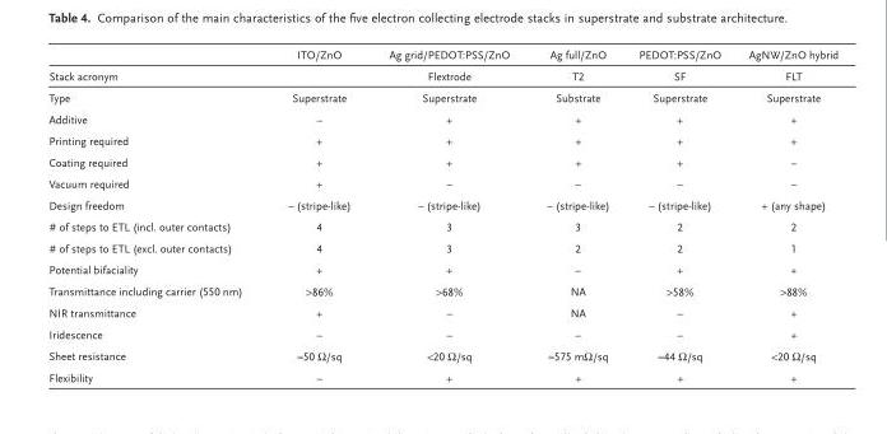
<table><thead><tr><td rowspan="2">Stack acronym</td><td rowspan="2">ITO/ZnO</td><td rowspan="2">Ag grid/PEDOT:PSS/ZnO Flextrode</td><td rowspan="2">Ag full/ZnO T2</td><td rowspan="2">PEDOT:PSS/ZnO SF</td><td rowspan="2">AgNW/ZnO hybrid FLT</td></tr><tr></tr></thead><tbody><tr><td>Type</td><td>Superstrate</td><td>Superstrate</td><td>Substrate</td><td>Superstrate</td><td>Superstrate</td></tr><tr><td>Additive</td><td>–</td><td>+</td><td>+</td><td>+</td><td>+</td></tr><tr><td>Printing required</td><td>+</td><td>+</td><td>+</td><td>+</td><td>+</td></tr><tr><td>Coating required</td><td>+</td><td>+</td><td>+</td><td>+</td><td>–</td></tr><tr><td>Vacuum required</td><td>+</td><td>–</td><td>–</td><td>–</td><td>–</td></tr><tr><td>Design freedom</td><td>– (stripe-like)</td><td>– (stripe-like)</td><td>– (stripe-like)</td><td>– (stripe-like)</td><td>+ (any shape)</td></tr><tr><td># of steps to ETL (incl. outer contacts)</td><td>4</td><td>3</td><td>3</td><td>2</td><td>2</td></tr><tr><td># of steps to ETL (excl. outer contacts)</td><td>4</td><td>3</td><td>2</td><td>2</td><td>1</td></tr><tr><td>Potential bifaciality</td><td>+</td><td>+</td><td>–</td><td>+</td><td>+</td></tr><tr><td>Transmittance including carrier (550 nm)</td><td>&gt;86%</td><td>&gt;68%</td><td>NA</td><td>&gt;58%</td><td>&gt;88%</td></tr><tr><td>NIR transmittance</td><td>+</td><td>–</td><td>NA</td><td>–</td><td>+</td></tr><tr><td>Iridescence</td><td>–</td><td>–</td><td>–</td><td>–</td><td>+</td></tr><tr><td>Sheet resistance</td><td>≈50 Ω/sq</td><td>&lt;20 Ω/sq</td><td>≈575 mΩ/sq</td><td>≈44 Ω/sq</td><td>&lt;20 Ω/sq</td></tr><tr><td>Flexibility</td><td>–</td><td>+</td><td>+</td><td>+</td><td>+</td></tr></tbody></table>